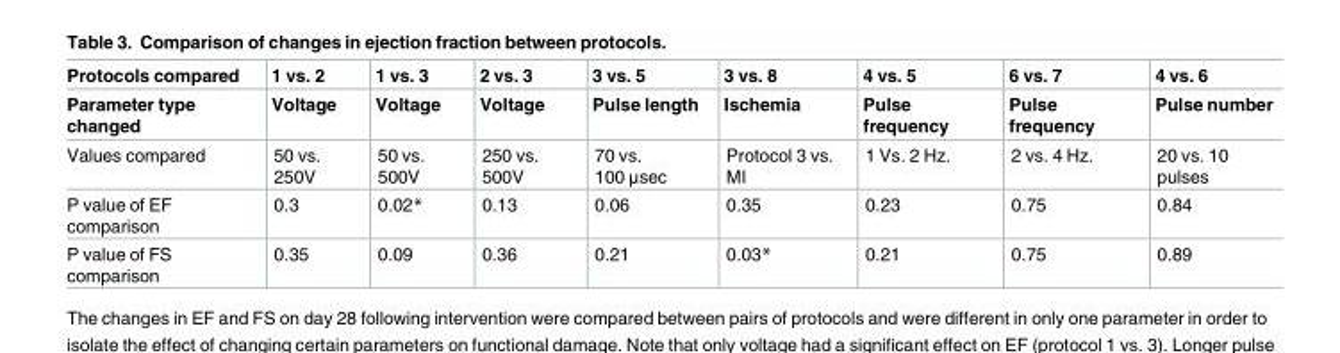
<table><thead><tr><td rowspan="2">Protocols compared Parameter type changed</td><td rowspan="2">1 vs. 2 Voltage</td><td rowspan="2">1 vs. 3 Voltage</td><td rowspan="2">2 vs. 3 Voltage</td><td rowspan="2">3 vs. 5 Pulse length</td><td rowspan="2">3 vs. 8 Ischemia</td><td rowspan="2">4 vs. 5 Pulse frequency</td><td rowspan="2">6 vs. 7 Pulse frequency</td><td rowspan="2">4 vs. 6 Pulse number</td></tr><tr></tr></thead><tbody><tr><td>Values compared</td><td>50 vs. 250V</td><td>50 vs. 500V</td><td>250 vs. 500V</td><td>70 vs. 100 μsec</td><td>Protocol 3 vs. MI</td><td>1 Vs. 2 Hz.</td><td>2 vs. 4 Hz.</td><td>20 vs. 10 pulses</td></tr><tr><td>P value of EF comparison</td><td>0.3</td><td>0.02*</td><td>0.13</td><td>0.06</td><td>0.35</td><td>0.23</td><td>0.75</td><td>0.84</td></tr><tr><td>P value of FS comparison</td><td>0.35</td><td>0.09</td><td>0.36</td><td>0.21</td><td>0.03*</td><td>0.21</td><td>0.75</td><td>0.89</td></tr></tbody></table>